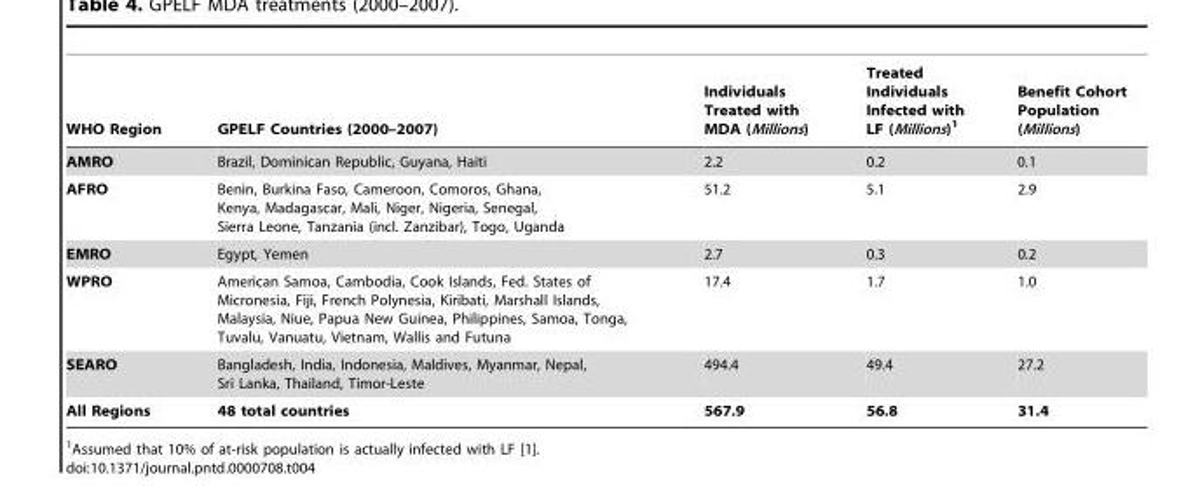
<table><thead><tr><td>WHO Region</td><td>GPELF Countries (2000–2007)</td><td>Individuals Treated with MDA (Millions)</td><td>Treated Individuals Infected with LF (Millions)<sup>1</sup></td><td>Benefit Cohort Population (Millions)</td></tr></thead><tbody><tr><td>AMRO</td><td>Brazil, Dominican Republic, Guyana, Haiti</td><td>2.2</td><td>0.2</td><td>0.1</td></tr><tr><td>AFRO</td><td>Benin, Burkina Faso, Cameroon, Comoros, Ghana, Kenya, Madagascar, Mali, Niger, Nigeria, Senegal, Sierra Leone, Tanzania (incl. Zanzibar), Togo, Uganda</td><td>51.2</td><td>5.1</td><td>2.9</td></tr><tr><td>EMRO</td><td>Egypt, Yemen</td><td>2.7</td><td>0.3</td><td>0.2</td></tr><tr><td>WPRO</td><td>American Samoa, Cambodia, Cook Islands, Fed. States of Micronesia, Fiji, French Polynesia, Kiribati, Marshall Islands, Malaysia, Niue, Papua New Guinea, Philippines, Samoa, Tonga, Tuvalu, Vanuatu, Vietnam, Wallis and Futuna</td><td>17.4</td><td>1.7</td><td>1.0</td></tr><tr><td>SEARO</td><td>Bangladesh, India, Indonesia, Maldives, Myanmar, Nepal, Sri Lanka, Thailand, Timor-Leste</td><td>494.4</td><td>49.4</td><td>27.2</td></tr><tr><td>All Regions</td><td>48 total countries</td><td>567.9</td><td>56.8</td><td>31.4</td></tr></tbody></table>